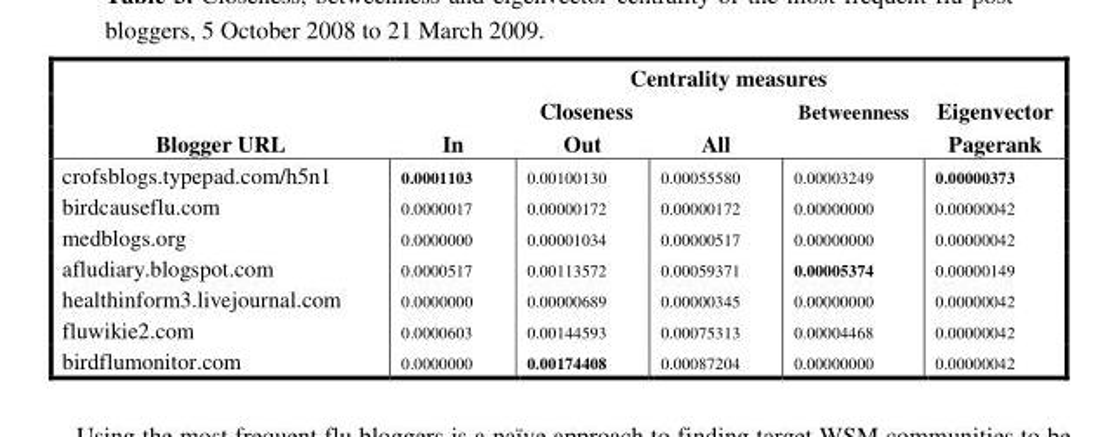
<table><thead><tr><td rowspan="3">Blogger URL</td><td colspan="5">Centrality measures</td></tr><tr><td colspan="3">Closeness</td><td rowspan="2">Betweenness</td><td rowspan="2">Eigenvector Pagerank</td></tr><tr><td>In</td><td>Out</td><td>All</td></tr></thead><tbody><tr><td>crofsblogs.typepad.com/h5n1</td><td>0.0001103</td><td>0.00100130</td><td>0.00055580</td><td>0.00003249</td><td>0.00000373</td></tr><tr><td>birdcauseflu.com</td><td>0.0000017</td><td>0.00000172</td><td>0.00000172</td><td>0.00000000</td><td>0.00000042</td></tr><tr><td>medblogs.org</td><td>0.0000000</td><td>0.00001034</td><td>0.00000517</td><td>0.00000000</td><td>0.00000042</td></tr><tr><td>afludiary.blogspot.com</td><td>0.0000517</td><td>0.00113572</td><td>0.00059371</td><td>0.00005374</td><td>0.00000149</td></tr><tr><td>healthinform3.livejournal.com</td><td>0.0000000</td><td>0.00000689</td><td>0.00000345</td><td>0.00000000</td><td>0.00000042</td></tr><tr><td>fluwikie2.com</td><td>0.0000603</td><td>0.00144593</td><td>0.00075313</td><td>0.00004468</td><td>0.00000042</td></tr><tr><td>birdflumonitor.com</td><td>0.0000000</td><td>0.00174408</td><td>0.00087204</td><td>0.00000000</td><td>0.00000042</td></tr></tbody></table>